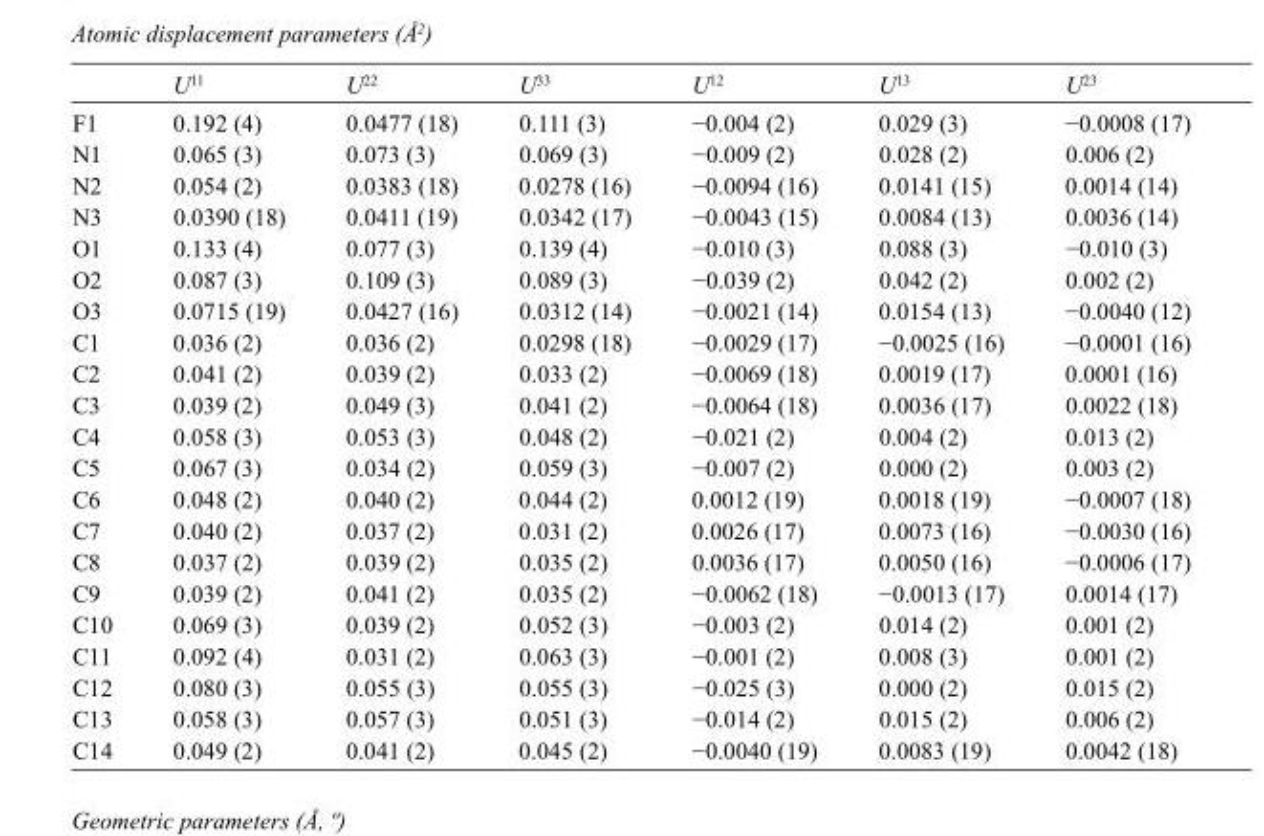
<table><thead><tr><td></td><td>U<sup>11</sup></td><td>U<sup>22</sup></td><td>U<sup>33</sup></td><td>U<sup>12</sup></td><td>U<sup>13</sup></td><td>U<sup>23</sup></td></tr></thead><tbody><tr><td>F1</td><td>0.192 (4)</td><td>0.0477 (18)</td><td>0.111 (3)</td><td>−0.004 (2)</td><td>0.029 (3)</td><td>−0.0008 (17)</td></tr><tr><td>N1</td><td>0.065 (3)</td><td>0.073 (3)</td><td>0.069 (3)</td><td>−0.009 (2)</td><td>0.028 (2)</td><td>0.006 (2)</td></tr><tr><td>N2</td><td>0.054 (2)</td><td>0.0383 (18)</td><td>0.0278 (16)</td><td>−0.0094 (16)</td><td>0.0141 (15)</td><td>0.0014 (14)</td></tr><tr><td>N3</td><td>0.0390 (18)</td><td>0.0411 (19)</td><td>0.0342 (17)</td><td>−0.0043 (15)</td><td>0.0084 (13)</td><td>0.0036 (14)</td></tr><tr><td>O1</td><td>0.133 (4)</td><td>0.077 (3)</td><td>0.139 (4)</td><td>−0.010 (3)</td><td>0.088 (3)</td><td>−0.010 (3)</td></tr><tr><td>O2</td><td>0.087 (3)</td><td>0.109 (3)</td><td>0.089 (3)</td><td>−0.039 (2)</td><td>0.042 (2)</td><td>0.002 (2)</td></tr><tr><td>O3</td><td>0.0715 (19)</td><td>0.0427 (16)</td><td>0.0312 (14)</td><td>−0.0021 (14)</td><td>0.0154 (13)</td><td>−0.0040 (12)</td></tr><tr><td>C1</td><td>0.036 (2)</td><td>0.036 (2)</td><td>0.0298 (18)</td><td>−0.0029 (17)</td><td>−0.0025 (16)</td><td>−0.0001 (16)</td></tr><tr><td>C2</td><td>0.041 (2)</td><td>0.039 (2)</td><td>0.033 (2)</td><td>−0.0069 (18)</td><td>0.0019 (17)</td><td>0.0001 (16)</td></tr><tr><td>C3</td><td>0.039 (2)</td><td>0.049 (3)</td><td>0.041 (2)</td><td>−0.0064 (18)</td><td>0.0036 (17)</td><td>0.0022 (18)</td></tr><tr><td>C4</td><td>0.058 (3)</td><td>0.053 (3)</td><td>0.048 (2)</td><td>−0.021 (2)</td><td>0.004 (2)</td><td>0.013 (2)</td></tr><tr><td>C5</td><td>0.067 (3)</td><td>0.034 (2)</td><td>0.059 (3)</td><td>−0.007 (2)</td><td>0.000 (2)</td><td>0.003 (2)</td></tr><tr><td>C6</td><td>0.048 (2)</td><td>0.040 (2)</td><td>0.044 (2)</td><td>0.0012 (19)</td><td>0.0018 (19)</td><td>−0.0007 (18)</td></tr><tr><td>C7</td><td>0.040 (2)</td><td>0.037 (2)</td><td>0.031 (2)</td><td>0.0026 (17)</td><td>0.0073 (16)</td><td>−0.0030 (16)</td></tr><tr><td>C8</td><td>0.037 (2)</td><td>0.039 (2)</td><td>0.035 (2)</td><td>0.0036 (17)</td><td>0.0050 (16)</td><td>−0.0006 (17)</td></tr><tr><td>C9</td><td>0.039 (2)</td><td>0.041 (2)</td><td>0.035 (2)</td><td>−0.0062 (18)</td><td>−0.0013 (17)</td><td>0.0014 (17)</td></tr><tr><td>C10</td><td>0.069 (3)</td><td>0.039 (2)</td><td>0.052 (3)</td><td>−0.003 (2)</td><td>0.014 (2)</td><td>0.001 (2)</td></tr><tr><td>C11</td><td>0.092 (4)</td><td>0.031 (2)</td><td>0.063 (3)</td><td>−0.001 (2)</td><td>0.008 (3)</td><td>0.001 (2)</td></tr><tr><td>C12</td><td>0.080 (3)</td><td>0.055 (3)</td><td>0.055 (3)</td><td>−0.025 (3)</td><td>0.000 (2)</td><td>0.015 (2)</td></tr><tr><td>C13</td><td>0.058 (3)</td><td>0.057 (3)</td><td>0.051 (3)</td><td>−0.014 (2)</td><td>0.015 (2)</td><td>0.006 (2)</td></tr><tr><td>C14</td><td>0.049 (2)</td><td>0.041 (2)</td><td>0.045 (2)</td><td>−0.0040 (19)</td><td>0.0083 (19)</td><td>0.0042 (18)</td></tr></tbody></table>